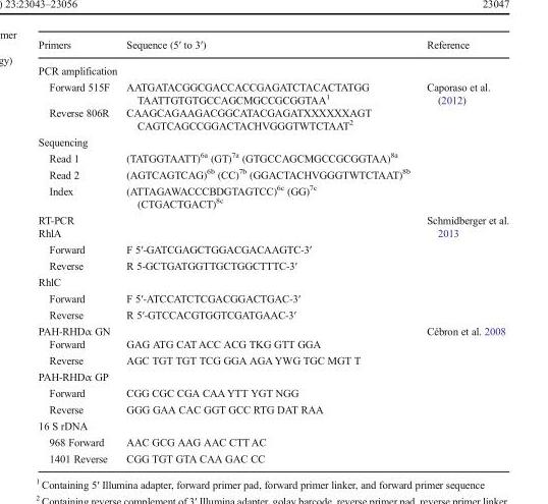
<table><thead><tr><td>Primers</td><td>Sequence (5′ to 3′)</td><td>Reference</td></tr></thead><tbody><tr><td colspan="3">PCR amplification</td></tr><tr><td>Forward 515F</td><td>AATGATACGGCGACCACCGAGATCTACACTATGG TAATTGTGTGCCAGCMGCCGCGGTAA<sup>1</sup></td><td rowspan="6">Caporaso et al. (2012)</td></tr><tr><td>Reverse 806R</td><td>CAAGCAGAAGACGGCATACGAGATXXXXXXAGT CAGTCAGCCGGACTACHVGGGTWTCTAAT<sup>2</sup></td></tr><tr><td colspan="2">Sequencing</td></tr><tr><td>Read 1</td><td>(TATGGTAATT)<sup>6a</sup> (GT)<sup>7a</sup> (GTGCCAGCMGCCGCGGTAA)<sup>8a</sup></td></tr><tr><td>Read 2</td><td>(AGTCAGTCAG)<sup>6b</sup> (CC)<sup>7b</sup> (GGACTACHVGGGTWTCTAAT)<sup>8b</sup></td></tr><tr><td>Index</td><td>(ATTAGAWACCCBDGTAGTCC)<sup>6c</sup> (GG)<sup>7c</sup> (CTGACTGACT)<sup>8c</sup></td></tr><tr><td colspan="2">RT-PCR</td><td rowspan="7">Schmidberger et al. 2013</td></tr><tr><td colspan="2">RhlA</td></tr><tr><td>Forward</td><td>F 5′-GATCGAGCTGGACGACAAGTC-3′</td></tr><tr><td>Reverse</td><td>R 5-GCTGATGGTTGCTGGCTTTC-3′</td></tr><tr><td colspan="2">RhlC</td></tr><tr><td>Forward</td><td>F 5′-ATCCATCTCGACGGACTGAC-3′</td></tr><tr><td>Reverse</td><td>R 5′-GTCCACGTGGTCGATGAAC-3′</td></tr><tr><td colspan="2">PAH-RHDα GN</td><td rowspan="9">Cébron et al. 2008</td></tr><tr><td>Forward</td><td>GAG ATG CAT ACC ACG TKG GTT GGA</td></tr><tr><td>Reverse</td><td>AGC TGT TGT TCG GGA AGA YWG TGC MGT T</td></tr><tr><td colspan="2">PAH-RHDα GP</td></tr><tr><td>Forward</td><td>CGG CGC CGA CAA YTT YGT NGG</td></tr><tr><td>Reverse</td><td>GGG GAA CAC GGT GCC RTG DAT RAA</td></tr><tr><td colspan="2">16 S rDNA</td></tr><tr><td>968 Forward</td><td>AAC GCG AAG AAC CTT AC</td></tr><tr><td>1401 Reverse</td><td>CGG TGT GTA CAA GAC CC</td></tr></tbody></table>